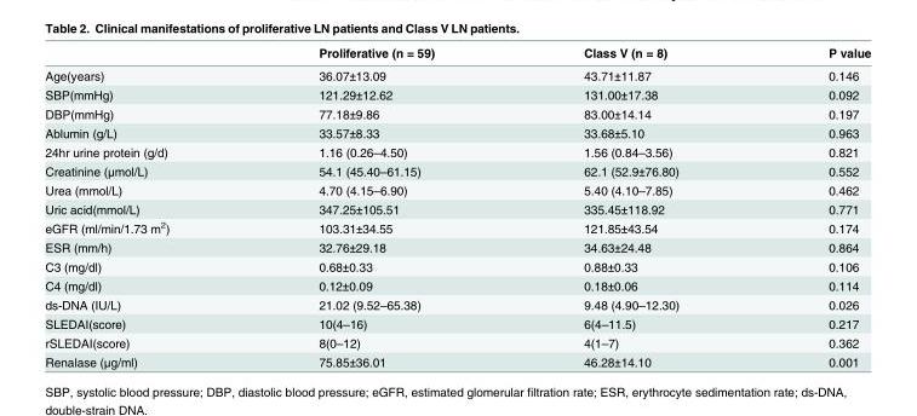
<table><thead><tr><td></td><td>Proliferative (n = 59)</td><td>Class V (n = 8)</td><td>P value</td></tr></thead><tbody><tr><td>Age(years)</td><td>36.07±13.09</td><td>43.71±11.87</td><td>0.146</td></tr><tr><td>SBP(mmHg)</td><td>121.29±12.62</td><td>131.00±17.38</td><td>0.092</td></tr><tr><td>DBP(mmHg)</td><td>77.18±9.86</td><td>83.00±14.14</td><td>0.197</td></tr><tr><td>Ablumin (g/L)</td><td>33.57±8.33</td><td>33.68±5.10</td><td>0.963</td></tr><tr><td>24hr urine protein (g/d)</td><td>1.16 (0.26–4.50)</td><td>1.56 (0.84–3.56)</td><td>0.821</td></tr><tr><td>Creatinine (μmol/L)</td><td>54.1 (45.40–61.15)</td><td>62.1 (52.9±76.80)</td><td>0.552</td></tr><tr><td>Urea (mmol/L)</td><td>4.70 (4.15–6.90)</td><td>5.40 (4.10–7.85)</td><td>0.462</td></tr><tr><td>Uric acid(mmol/L)</td><td>347.25±105.51</td><td>335.45±118.92</td><td>0.771</td></tr><tr><td>eGFR (ml/min/1.73 m<sup>2</sup>)</td><td>103.31±34.55</td><td>121.85±43.54</td><td>0.174</td></tr><tr><td>ESR (mm/h)</td><td>32.76±29.18</td><td>34.63±24.48</td><td>0.864</td></tr><tr><td>C3 (mg/dl)</td><td>0.68±0.33</td><td>0.88±0.33</td><td>0.106</td></tr><tr><td>C4 (mg/dl)</td><td>0.12±0.09</td><td>0.18±0.06</td><td>0.114</td></tr><tr><td>ds-DNA (IU/L)</td><td>21.02 (9.52–65.38)</td><td>9.48 (4.90–12.30)</td><td>0.026</td></tr><tr><td>SLEDAI(score)</td><td>10(4–16)</td><td>6(4–11.5)</td><td>0.217</td></tr><tr><td>rSLEDAI(score)</td><td>8(0–12)</td><td>4(1–7)</td><td>0.362</td></tr><tr><td>Renalase (μg/ml)</td><td>75.85±36.01</td><td>46.28±14.10</td><td>0.001</td></tr></tbody></table>